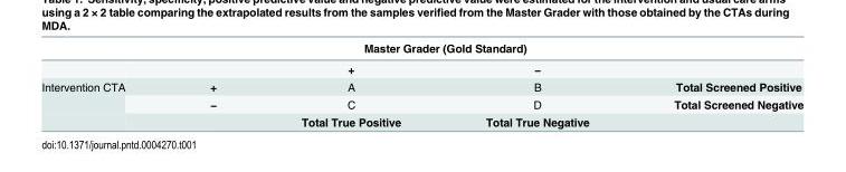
<table><thead><tr><td rowspan="2"></td><td rowspan="2"></td><td colspan="2">Master Grader (Gold Standard)</td><td rowspan="2"></td></tr><tr><td>+</td><td>−</td></tr></thead><tbody><tr><td rowspan="3">Intervention CTA</td><td>+</td><td>A</td><td>B</td><td>Total Screened Positive</td></tr><tr><td>−</td><td>C</td><td>D</td><td>Total Screened Negative</td></tr><tr><td></td><td>Total True Positive</td><td>Total True Negative</td><td></td></tr></tbody></table>